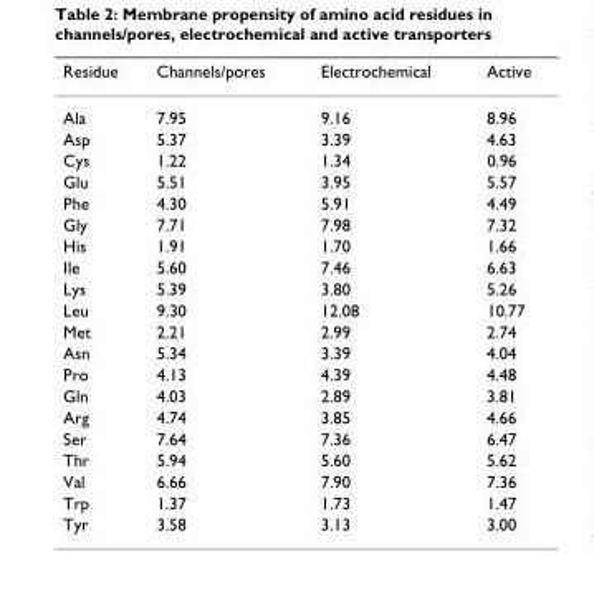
<table><thead><tr><td>Residue</td><td>Channels/pores</td><td>Electrochemical</td><td>Active</td></tr></thead><tbody><tr><td>Ala</td><td>7.95</td><td>9.16</td><td>8.96</td></tr><tr><td>Asp</td><td>5.37</td><td>3.39</td><td>4.63</td></tr><tr><td>Cys</td><td>1.22</td><td>1.34</td><td>0.96</td></tr><tr><td>Glu</td><td>5.51</td><td>3.95</td><td>5.57</td></tr><tr><td>Phe</td><td>4.30</td><td>5.91</td><td>4.49</td></tr><tr><td>Gly</td><td>7.71</td><td>7.98</td><td>7.32</td></tr><tr><td>His</td><td>1.91</td><td>1.70</td><td>1.66</td></tr><tr><td>Ile</td><td>5.60</td><td>7.46</td><td>6.63</td></tr><tr><td>Lys</td><td>5.39</td><td>3.80</td><td>5.26</td></tr><tr><td>Leu</td><td>9.30</td><td>12.08</td><td>10.77</td></tr><tr><td>Met</td><td>2.21</td><td>2.99</td><td>2.74</td></tr><tr><td>Asn</td><td>5.34</td><td>3.39</td><td>4.04</td></tr><tr><td>Pro</td><td>4.13</td><td>4.39</td><td>4.48</td></tr><tr><td>Gln</td><td>4.03</td><td>2.89</td><td>3.81</td></tr><tr><td>Arg</td><td>4.74</td><td>3.85</td><td>4.66</td></tr><tr><td>Ser</td><td>7.64</td><td>7.36</td><td>6.47</td></tr><tr><td>Thr</td><td>5.94</td><td>5.60</td><td>5.62</td></tr><tr><td>Val</td><td>6.66</td><td>7.90</td><td>7.36</td></tr><tr><td>Trp</td><td>1.37</td><td>1.73</td><td>1.47</td></tr><tr><td>Tyr</td><td>3.58</td><td>3.13</td><td>3.00</td></tr></tbody></table>